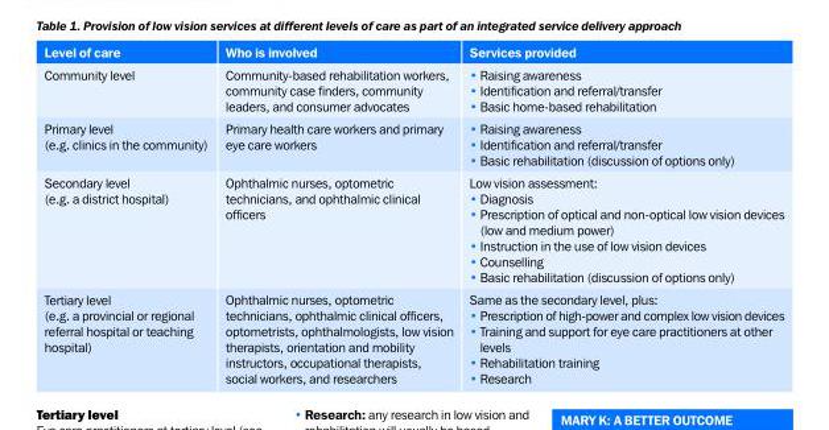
<table><thead><tr><td>Level of care</td><td>Who is involved</td><td>Services provided</td></tr></thead><tbody><tr><td>Community level</td><td>Community-based rehabilitation workers, community case finders, community leaders, and consumer advocates</td><td>Raising awareness • Identification and referral/transfer • Basic home-based rehabilitation •</td></tr><tr><td>Primary level (e.g. clinics in the community)</td><td>Primary health care workers and primary eye care workers</td><td>Raising awareness • Identification and referral/transfer • Basic rehabilitation (discussion of options only) •</td></tr><tr><td>Secondary level (e.g. a district hospital)</td><td>Ophthalmic nurses, optometric technicians, and ophthalmic clinical officers</td><td>Low vision assessment: Diagnosis • Prescription of optical and non-optical low vision devices • (low and medium power) Instruction in the use of low vision devices • Counselling • Basic rehabilitation (discussion of options only) •</td></tr><tr><td>Tertiary level (e.g. a provincial or regional referral hospital or teaching hospital)</td><td>Ophthalmic nurses, optometric technicians, ophthalmic clinical officers, optometrists, ophthalmologists, low vision therapists, orientation and mobility instructors, occupational therapists, social workers, and researchers</td><td>Same as the secondary level, plus: Prescription of high-power and complex low vision devices • Training and support for eye care practitioners at other • levels Rehabilitation training • Research •</td></tr></tbody></table>